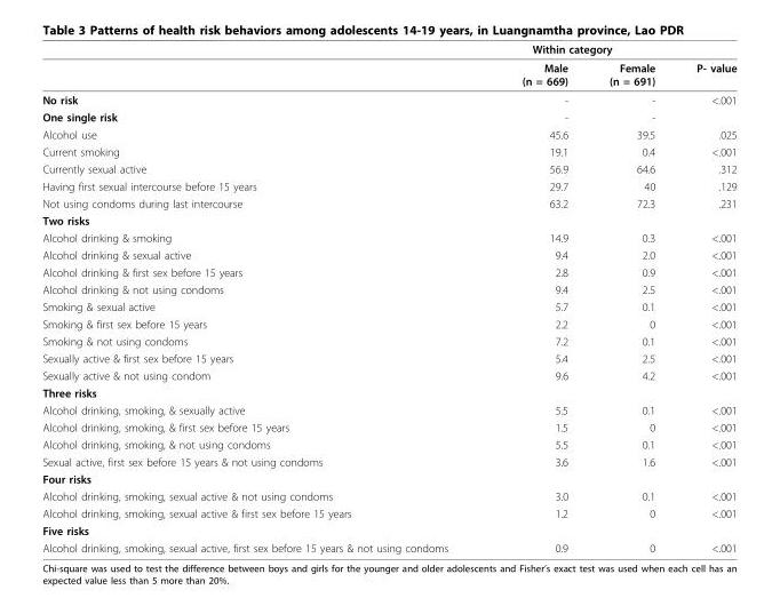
<table><thead><tr><td rowspan="2"></td><td colspan="2">Within category</td><td rowspan="2">P- value</td></tr><tr><td>Male (n = 669)</td><td>Female (n = 691)</td></tr></thead><tbody><tr><td>No risk</td><td>-</td><td>-</td><td>&lt;.001</td></tr><tr><td>One single risk</td><td>-</td><td>-</td><td></td></tr><tr><td>Alcohol use</td><td>45.6</td><td>39.5</td><td>.025</td></tr><tr><td>Current smoking</td><td>19.1</td><td>0.4</td><td>&lt;.001</td></tr><tr><td>Currently sexual active</td><td>56.9</td><td>64.6</td><td>.312</td></tr><tr><td>Having first sexual intercourse before 15 years</td><td>29.7</td><td>40</td><td>.129</td></tr><tr><td>Not using condoms during last intercourse</td><td>63.2</td><td>72.3</td><td>.231</td></tr><tr><td colspan="4">Two risks</td></tr><tr><td>Alcohol drinking &amp; smoking</td><td>14.9</td><td>0.3</td><td>&lt;.001</td></tr><tr><td>Alcohol drinking &amp; sexual active</td><td>9.4</td><td>2.0</td><td>&lt;.001</td></tr><tr><td>Alcohol drinking &amp; first sex before 15 years</td><td>2.8</td><td>0.9</td><td>&lt;.001</td></tr><tr><td>Alcohol drinking &amp; not using condoms</td><td>9.4</td><td>2.5</td><td>&lt;.001</td></tr><tr><td>Smoking &amp; sexual active</td><td>5.7</td><td>0.1</td><td>&lt;.001</td></tr><tr><td>Smoking &amp; first sex before 15 years</td><td>2.2</td><td>0</td><td>&lt;.001</td></tr><tr><td>Smoking &amp; not using condoms</td><td>7.2</td><td>0.1</td><td>&lt;.001</td></tr><tr><td>Sexually active &amp; first sex before 15 years</td><td>5.4</td><td>2.5</td><td>&lt;.001</td></tr><tr><td>Sexually active &amp; not using condom</td><td>9.6</td><td>4.2</td><td>&lt;.001</td></tr><tr><td colspan="4">Three risks</td></tr><tr><td>Alcohol drinking, smoking, &amp; sexually active</td><td>5.5</td><td>0.1</td><td>&lt;.001</td></tr><tr><td>Alcohol drinking, smoking, &amp; first sex before 15 years</td><td>1.5</td><td>0</td><td>&lt;.001</td></tr><tr><td>Alcohol drinking, smoking, &amp; not using condoms</td><td>5.5</td><td>0.1</td><td>&lt;.001</td></tr><tr><td>Sexual active, first sex before 15 years &amp; not using condoms</td><td>3.6</td><td>1.6</td><td>&lt;.001</td></tr><tr><td colspan="4">Four risks</td></tr><tr><td>Alcohol drinking, smoking, sexual active &amp; not using condoms</td><td>3.0</td><td>0.1</td><td>&lt;.001</td></tr><tr><td>Alcohol drinking, smoking, sexual active &amp; first sex before 15 years</td><td>1.2</td><td>0</td><td>&lt;.001</td></tr><tr><td colspan="4">Five risks</td></tr><tr><td>Alcohol drinking, smoking, sexual active, first sex before 15 years &amp; not using condoms</td><td>0.9</td><td>0</td><td>&lt;.001</td></tr></tbody></table>